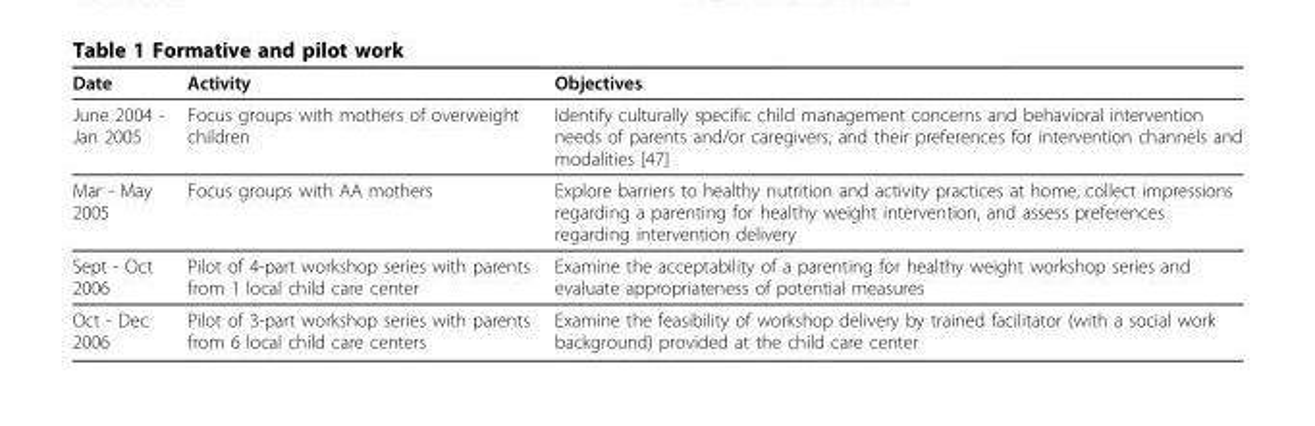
<table><thead><tr><td>Date</td><td>Activity</td><td>Objectives</td></tr></thead><tbody><tr><td>June 2004 - Jan 2005</td><td>Focus groups with mothers of overweight children</td><td>Identify culturally specific child management concerns and behavioral intervention needs of parents and/or caregivers, and their preferences for intervention channels and modalities [47]</td></tr><tr><td>Mar - May 2005</td><td>Focus groups with AA mothers</td><td>Explore barriers to healthy nutrition and activity practices at home, collect impressions regarding a parenting for healthy weight intervention, and assess preferences regarding intervention delivery</td></tr><tr><td>Sept - Oct 2006</td><td>Pilot of 4-part workshop series with parents from 1 local child care center</td><td>Examine the acceptability of a parenting for healthy weight workshop series and evaluate appropriateness of potential measures</td></tr><tr><td>Oct - Dec 2006</td><td>Pilot of 3-part workshop series with parents from 6 local child care centers</td><td>Examine the feasibility of workshop delivery by trained facilitator (with a social work background) provided at the child care center</td></tr></tbody></table>